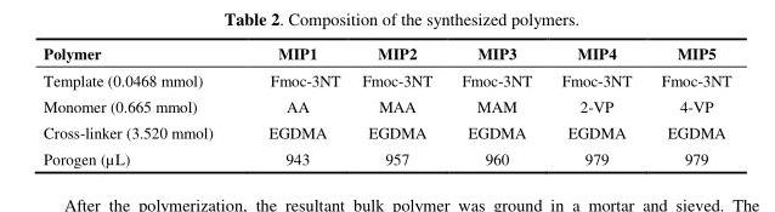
<table><thead><tr><td>Polymer</td><td>MIP1</td><td>MIP2</td><td>MIP3</td><td>MIP4</td><td>MIP5</td></tr></thead><tbody><tr><td>Template (0.0468 mmol)</td><td>Fmoc-3NT</td><td>Fmoc-3NT</td><td>Fmoc-3NT</td><td>Fmoc-3NT</td><td>Fmoc-3NT</td></tr><tr><td>Monomer (0.665 mmol)</td><td>AA</td><td>MAA</td><td>MAM</td><td>2-VP</td><td>4-VP</td></tr><tr><td>Cross-linker (3.520 mmol)</td><td>EGDMA</td><td>EGDMA</td><td>EGDMA</td><td>EGDMA</td><td>EGDMA</td></tr><tr><td>Porogen (µL)</td><td>943</td><td>957</td><td>960</td><td>979</td><td>979</td></tr></tbody></table>